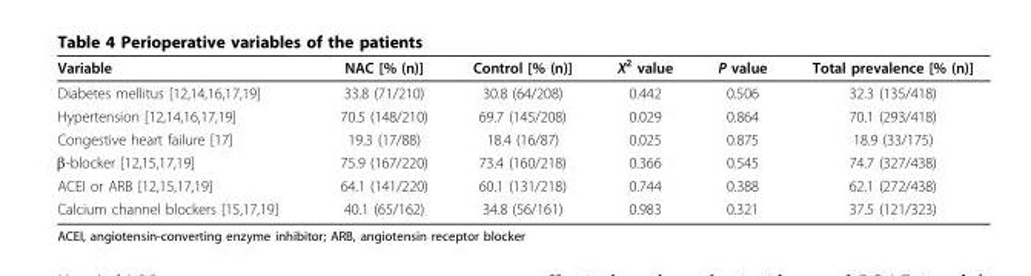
<table><thead><tr><td>Variable</td><td>NAC [% (n)]</td><td>Control [% (n)]</td><td>X<sup>2</sup> value</td><td>P value</td><td>Total prevalence [% (n)]</td></tr></thead><tbody><tr><td>Diabetes mellitus [12,14,16,17,19]</td><td>33.8 (71/210)</td><td>30.8 (64/208)</td><td>0.442</td><td>0.506</td><td>32.3 (135/418)</td></tr><tr><td>Hypertension [12,14,16,17,19]</td><td>70.5 (148/210)</td><td>69.7 (145/208)</td><td>0.029</td><td>0.864</td><td>70.1 (293/418)</td></tr><tr><td>Congestive heart failure [17]</td><td>19.3 (17/88)</td><td>18.4 (16/87)</td><td>0.025</td><td>0.875</td><td>18.9 (33/175)</td></tr><tr><td>β-blocker [12,15,17,19]</td><td>75.9 (167/220)</td><td>73.4 (160/218)</td><td>0.366</td><td>0.545</td><td>74.7 (327/438)</td></tr><tr><td>ACEI or ARB [12,15,17,19]</td><td>64.1 (141/220)</td><td>60.1 (131/218)</td><td>0.744</td><td>0.388</td><td>62.1 (272/438)</td></tr><tr><td>Calcium channel blockers [15,17,19]</td><td>40.1 (65/162)</td><td>34.8 (56/161)</td><td>0.983</td><td>0.321</td><td>37.5 (121/323)</td></tr></tbody></table>